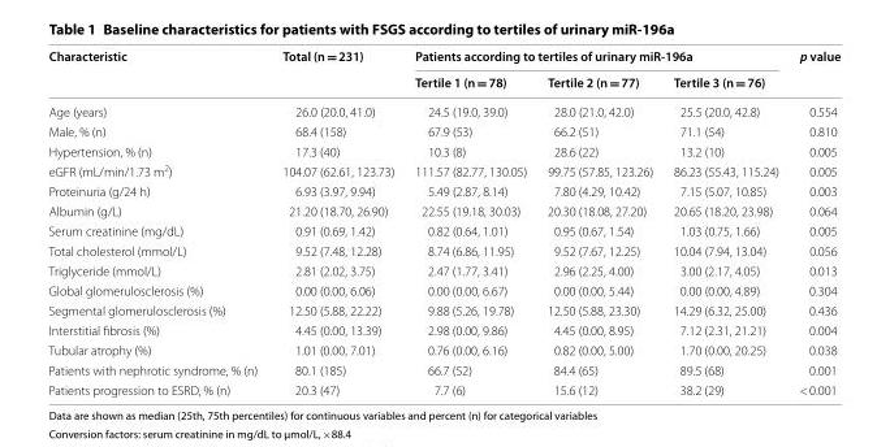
<table><thead><tr><td rowspan="2">Characteristic</td><td rowspan="2">Total (n = 231)</td><td colspan="3">Patients according to tertiles of urinary miR‑196a</td><td rowspan="2">p value</td></tr><tr><td>Tertile 1 (n = 78)</td><td>Tertile 2 (n = 77)</td><td>Tertile 3 (n = 76)</td></tr></thead><tbody><tr><td>Age (years)</td><td>26.0 (20.0, 41.0)</td><td>24.5 (19.0, 39.0)</td><td>28.0 (21.0, 42.0)</td><td>25.5 (20.0, 42.8)</td><td>0.554</td></tr><tr><td>Male, % (n)</td><td>68.4 (158)</td><td>67.9 (53)</td><td>66.2 (51)</td><td>71.1 (54)</td><td>0.810</td></tr><tr><td>Hypertension, % (n)</td><td>17.3 (40)</td><td>10.3 (8)</td><td>28.6 (22)</td><td>13.2 (10)</td><td>0.005</td></tr><tr><td>eGFR (mL/min/1.73 m<sup>2</sup>)</td><td>104.07 (62.61, 123.73)</td><td>111.57 (82.77, 130.05)</td><td>99.75 (57.85, 123.26)</td><td>86.23 (55.43, 115.24)</td><td>0.005</td></tr><tr><td>Proteinuria (g/24 h)</td><td>6.93 (3.97, 9.94)</td><td>5.49 (2.87, 8.14)</td><td>7.80 (4.29, 10.42)</td><td>7.15 (5.07, 10.85)</td><td>0.003</td></tr><tr><td>Albumin (g/L)</td><td>21.20 (18.70, 26.90)</td><td>22.55 (19.18, 30.03)</td><td>20.30 (18.08, 27.20)</td><td>20.65 (18.20, 23.98)</td><td>0.064</td></tr><tr><td>Serum creatinine (mg/dL)</td><td>0.91 (0.69, 1.42)</td><td>0.82 (0.64, 1.01)</td><td>0.95 (0.67, 1.54)</td><td>1.03 (0.75, 1.66)</td><td>0.005</td></tr><tr><td>Total cholesterol (mmol/L)</td><td>9.52 (7.48, 12.28)</td><td>8.74 (6.86, 11.95)</td><td>9.52 (7.67, 12.25)</td><td>10.04 (7.94, 13.04)</td><td>0.056</td></tr><tr><td>Triglyceride (mmol/L)</td><td>2.81 (2.02, 3.75)</td><td>2.47 (1.77, 3.41)</td><td>2.96 (2.25, 4.00)</td><td>3.00 (2.17, 4.05)</td><td>0.013</td></tr><tr><td>Global glomerulosclerosis (%)</td><td>0.00 (0.00, 6.06)</td><td>0.00 (0.00, 6.67)</td><td>0.00 (0.00, 5.44)</td><td>0.00 (0.00, 4.89)</td><td>0.304</td></tr><tr><td>Segmental glomerulosclerosis (%)</td><td>12.50 (5.88, 22.22)</td><td>9.88 (5.26, 19.78)</td><td>12.50 (5.88, 23.30)</td><td>14.29 (6.32, 25.00)</td><td>0.436</td></tr><tr><td>Interstitial fibrosis (%)</td><td>4.45 (0.00, 13.39)</td><td>2.98 (0.00, 9.86)</td><td>4.45 (0.00, 8.95)</td><td>7.12 (2.31, 21.21)</td><td>0.004</td></tr><tr><td>Tubular atrophy (%)</td><td>1.01 (0.00, 7.01)</td><td>0.76 (0.00, 6.16)</td><td>0.82 (0.00, 5.00)</td><td>1.70 (0.00, 20.25)</td><td>0.038</td></tr><tr><td>Patients with nephrotic syndrome, % (n)</td><td>80.1 (185)</td><td>66.7 (52)</td><td>84.4 (65)</td><td>89.5 (68)</td><td>0.001</td></tr><tr><td>Patients progression to ESRD, % (n)</td><td>20.3 (47)</td><td>7.7 (6)</td><td>15.6 (12)</td><td>38.2 (29)</td><td>&lt; 0.001</td></tr></tbody></table>